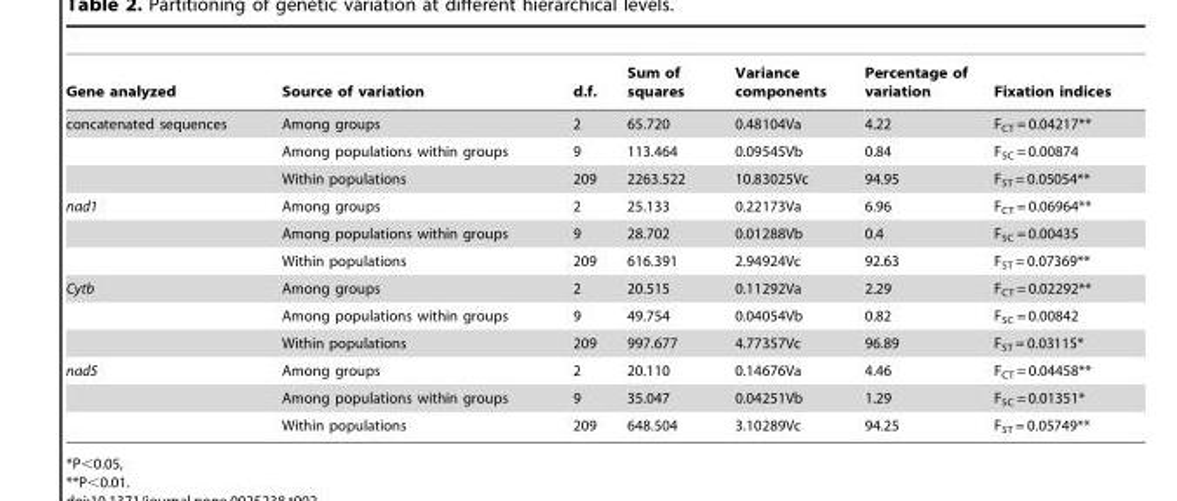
<table><thead><tr><td>Gene analyzed</td><td>Source of variation</td><td>d.f.</td><td>Sum of squares</td><td>Variance components</td><td>Percentage of variation</td><td>Fixation indices</td></tr></thead><tbody><tr><td rowspan="3">concatenated sequences</td><td>Among groups</td><td>2</td><td>65.720</td><td>0.48104Va</td><td>4.22</td><td>F<sub>CT</sub> = 0.04217**</td></tr><tr><td>Among populations within groups</td><td>9</td><td>113.464</td><td>0.09545Vb</td><td>0.84</td><td>F<sub>SC</sub> = 0.00874</td></tr><tr><td>Within populations</td><td>209</td><td>2263.522</td><td>10.83025Vc</td><td>94.95</td><td>F<sub>ST</sub> = 0.05054**</td></tr><tr><td rowspan="3">nad1</td><td>Among groups</td><td>2</td><td>25.133</td><td>0.22173Va</td><td>6.96</td><td>F<sub>CT</sub> = 0.06964**</td></tr><tr><td>Among populations within groups</td><td>9</td><td>28.702</td><td>0.01288Vb</td><td>0.4</td><td>F<sub>SC</sub> = 0.00435</td></tr><tr><td>Within populations</td><td>209</td><td>616.391</td><td>2.94924Vc</td><td>92.63</td><td>F<sub>ST</sub> = 0.07369**</td></tr><tr><td rowspan="3">Cytb</td><td>Among groups</td><td>2</td><td>20.515</td><td>0.11292Va</td><td>2.29</td><td>F<sub>CT</sub> = 0.02292**</td></tr><tr><td>Among populations within groups</td><td>9</td><td>49.754</td><td>0.04054Vb</td><td>0.82</td><td>F<sub>SC</sub> = 0.00842</td></tr><tr><td>Within populations</td><td>209</td><td>997.677</td><td>4.77357Vc</td><td>96.89</td><td>F<sub>ST</sub> = 0.03115*</td></tr><tr><td rowspan="3">nad5</td><td>Among groups</td><td>2</td><td>20.110</td><td>0.14676Va</td><td>4.46</td><td>F<sub>CT</sub> = 0.04458**</td></tr><tr><td>Among populations within groups</td><td>9</td><td>35.047</td><td>0.04251Vb</td><td>1.29</td><td>F<sub>SC</sub> = 0.01351*</td></tr><tr><td>Within populations</td><td>209</td><td>648.504</td><td>3.10289Vc</td><td>94.25</td><td>F<sub>ST</sub> = 0.05749**</td></tr></tbody></table>